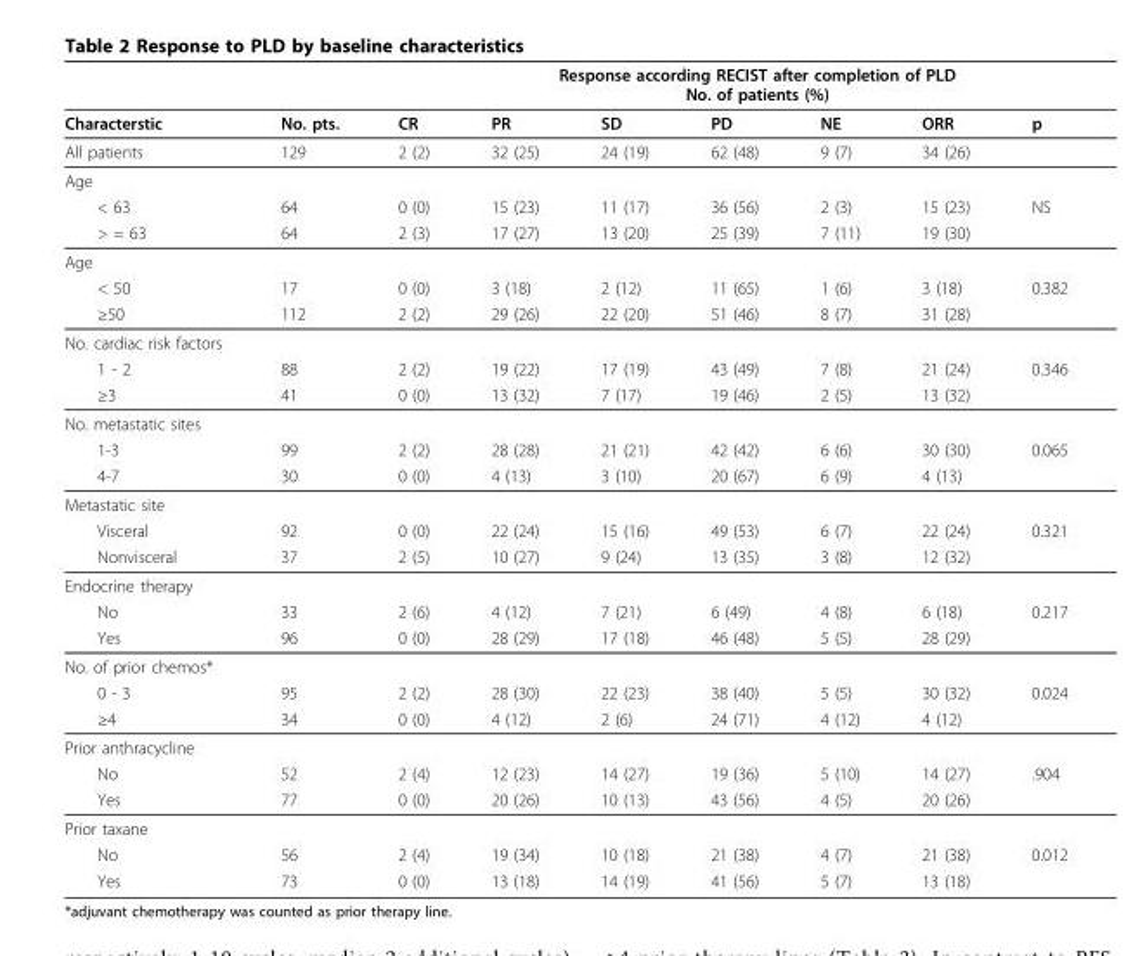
<table><thead><tr><td rowspan="2">Characterstic</td><td rowspan="2">No. pts.</td><td colspan="7">Response according RECIST after completion of PLD No. of patients (%)</td></tr><tr><td>CR</td><td>PR</td><td>SD</td><td>PD</td><td>NE</td><td>ORR</td><td>p</td></tr></thead><tbody><tr><td>All patients</td><td>129</td><td>2 (2)</td><td>32 (25)</td><td>24 (19)</td><td>62 (48)</td><td>9 (7)</td><td>34 (26)</td><td></td></tr><tr><td colspan="9">Age</td></tr><tr><td>&lt; 63</td><td>64</td><td>0 (0)</td><td>15 (23)</td><td>11 (17)</td><td>36 (56)</td><td>2 (3)</td><td>15 (23)</td><td>NS</td></tr><tr><td>&gt; = 63</td><td>64</td><td>2 (3)</td><td>17 (27)</td><td>13 (20)</td><td>25 (39)</td><td>7 (11)</td><td>19 (30)</td><td></td></tr><tr><td colspan="9">Age</td></tr><tr><td>&lt; 50</td><td>17</td><td>0 (0)</td><td>3 (18)</td><td>2 (12)</td><td>11 (65)</td><td>1 (6)</td><td>3 (18)</td><td>0.382</td></tr><tr><td>≥50</td><td>112</td><td>2 (2)</td><td>29 (26)</td><td>22 (20)</td><td>51 (46)</td><td>8 (7)</td><td>31 (28)</td><td></td></tr><tr><td colspan="9">No. cardiac risk factors</td></tr><tr><td>1 - 2</td><td>88</td><td>2 (2)</td><td>19 (22)</td><td>17 (19)</td><td>43 (49)</td><td>7 (8)</td><td>21 (24)</td><td>0.346</td></tr><tr><td>≥3</td><td>41</td><td>0 (0)</td><td>13 (32)</td><td>7 (17)</td><td>19 (46)</td><td>2 (5)</td><td>13 (32)</td><td></td></tr><tr><td colspan="9">No. metastatic sites</td></tr><tr><td>1-3</td><td>99</td><td>2 (2)</td><td>28 (28)</td><td>21 (21)</td><td>42 (42)</td><td>6 (6)</td><td>30 (30)</td><td>0.065</td></tr><tr><td>4-7</td><td>30</td><td>0 (0)</td><td>4 (13)</td><td>3 (10)</td><td>20 (67)</td><td>6 (9)</td><td>4 (13)</td><td></td></tr><tr><td colspan="9">Metastatic site</td></tr><tr><td>Visceral</td><td>92</td><td>0 (0)</td><td>22 (24)</td><td>15 (16)</td><td>49 (53)</td><td>6 (7)</td><td>22 (24)</td><td>0.321</td></tr><tr><td>Nonvisceral</td><td>37</td><td>2 (5)</td><td>10 (27)</td><td>9 (24)</td><td>13 (35)</td><td>3 (8)</td><td>12 (32)</td><td></td></tr><tr><td colspan="9">Endocrine therapy</td></tr><tr><td>No</td><td>33</td><td>2 (6)</td><td>4 (12)</td><td>7 (21)</td><td>6 (49)</td><td>4 (8)</td><td>6 (18)</td><td>0.217</td></tr><tr><td>Yes</td><td>96</td><td>0 (0)</td><td>28 (29)</td><td>17 (18)</td><td>46 (48)</td><td>5 (5)</td><td>28 (29)</td><td></td></tr><tr><td colspan="9">No. of prior chemos*</td></tr><tr><td>0 - 3</td><td>95</td><td>2 (2)</td><td>28 (30)</td><td>22 (23)</td><td>38 (40)</td><td>5 (5)</td><td>30 (32)</td><td>0.024</td></tr><tr><td>≥4</td><td>34</td><td>0 (0)</td><td>4 (12)</td><td>2 (6)</td><td>24 (71)</td><td>4 (12)</td><td>4 (12)</td><td></td></tr><tr><td colspan="9">Prior anthracycline</td></tr><tr><td>No</td><td>52</td><td>2 (4)</td><td>12 (23)</td><td>14 (27)</td><td>19 (36)</td><td>5 (10)</td><td>14 (27)</td><td>.904</td></tr><tr><td>Yes</td><td>77</td><td>0 (0)</td><td>20 (26)</td><td>10 (13)</td><td>43 (56)</td><td>4 (5)</td><td>20 (26)</td><td></td></tr><tr><td colspan="9">Prior taxane</td></tr><tr><td>No</td><td>56</td><td>2 (4)</td><td>19 (34)</td><td>10 (18)</td><td>21 (38)</td><td>4 (7)</td><td>21 (38)</td><td>0.012</td></tr><tr><td>Yes</td><td>73</td><td>0 (0)</td><td>13 (18)</td><td>14 (19)</td><td>41 (56)</td><td>5 (7)</td><td>13 (18)</td><td></td></tr></tbody></table>